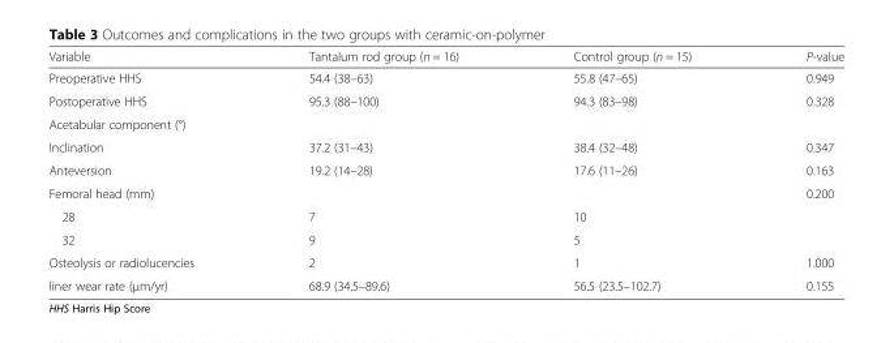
<table><thead><tr><td>Variable</td><td>Tantalum rod group (n = 16)</td><td>Control group (n = 15)</td><td>P-value</td></tr></thead><tbody><tr><td>Preoperative HHS</td><td>54.4 (38–63)</td><td>55.8 (47–65)</td><td>0.949</td></tr><tr><td>Postoperative HHS</td><td>95.3 (88–100)</td><td>94.3 (83–98)</td><td>0.328</td></tr><tr><td colspan="4">Acetabular component (°)</td></tr><tr><td>Inclination</td><td>37.2 (31–43)</td><td>38.4 (32–48)</td><td>0.347</td></tr><tr><td>Anteversion</td><td>19.2 (14–28)</td><td>17.6 (11–26)</td><td>0.163</td></tr><tr><td>Femoral head (mm)</td><td></td><td></td><td>0.200</td></tr><tr><td>28</td><td>7</td><td>10</td><td></td></tr><tr><td>32</td><td>9</td><td>5</td><td></td></tr><tr><td>Osteolysis or radiolucencies</td><td>2</td><td>1</td><td>1.000</td></tr><tr><td>liner wear rate (μm/yr)</td><td>68.9 (34.5–89.6)</td><td>56.5 (23.5–102.7)</td><td>0.155</td></tr></tbody></table>